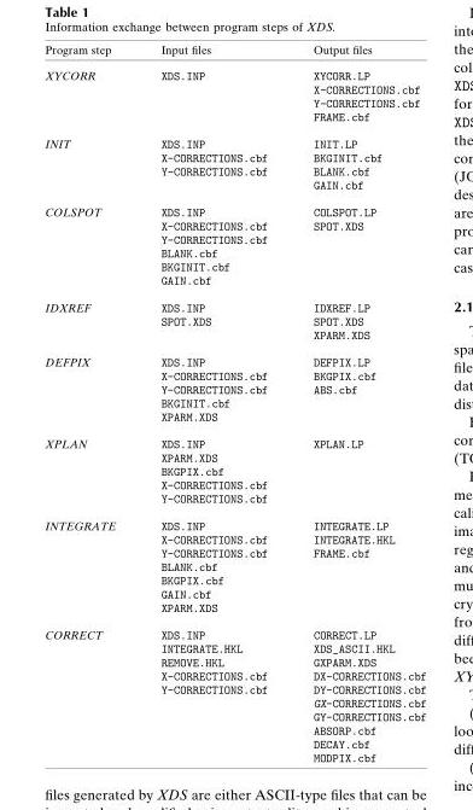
<table><thead><tr><td>Program step</td><td>Input files</td><td>Output files</td></tr></thead><tbody><tr><td rowspan="4">XYCORR</td><td>XDS.INP</td><td>XYCORR.LP</td></tr><tr><td></td><td>X-CORRECTIONS.cbf</td></tr><tr><td></td><td>Y-CORRECTIONS.cbf</td></tr><tr><td></td><td>FRAME.cbf</td></tr><tr><td rowspan="4">INIT</td><td>XDS.INP</td><td>INIT.LP</td></tr><tr><td>X-CORRECTIONS.cbf</td><td>BKGINIT.cbf</td></tr><tr><td>Y-CORRECTIONS.cbf</td><td>BLANK.cbf</td></tr><tr><td></td><td>GAIN.cbf</td></tr><tr><td rowspan="6">COLSPOT</td><td>XDS.INP</td><td>COLSPOT.LP</td></tr><tr><td>X-CORRECTIONS.cbf</td><td>SPOT.XDS</td></tr><tr><td>Y-CORRECTIONS.cbf</td><td></td></tr><tr><td>BLANK.cbf</td><td></td></tr><tr><td>BKGINIT.cbf</td><td></td></tr><tr><td>GAIN.cbf</td><td></td></tr><tr><td rowspan="3">IDXREF</td><td>XDS.INP</td><td>IDXREF.LP</td></tr><tr><td>SPOT.XDS</td><td>SPOT.XDS</td></tr><tr><td></td><td>XPARM.XDS</td></tr><tr><td rowspan="5">DEFPIX</td><td>XDS.INP</td><td>DEFPIX.LP</td></tr><tr><td>X-CORRECTIONS.cbf</td><td>BKGPIX.cbf</td></tr><tr><td>Y-CORRECTIONS.cbf</td><td>ABS.cbf</td></tr><tr><td>BKGINIT.cbf</td><td></td></tr><tr><td>XPARM.XDS</td><td></td></tr><tr><td rowspan="5">XPLAN</td><td>XDS.INP</td><td>XPLAN.LP</td></tr><tr><td>XPARM.XDS</td><td></td></tr><tr><td>BKGPIX.cbf</td><td></td></tr><tr><td>X-CORRECTIONS.cbf</td><td></td></tr><tr><td>Y-CORRECTIONS.cbf</td><td></td></tr><tr><td rowspan="7">INTEGRATE</td><td>XDS.INP</td><td>INTEGRATE.LP</td></tr><tr><td>X-CORRECTIONS.cbf</td><td>INTEGRATE.HKL</td></tr><tr><td>Y-CORRECTIONS.cbf</td><td>FRAME.cbf</td></tr><tr><td>BLANK.cbf</td><td></td></tr><tr><td>BKGPIX.cbf</td><td></td></tr><tr><td>GAIN.cbf</td><td></td></tr><tr><td>XPARM.XDS</td><td></td></tr><tr><td rowspan="10">CORRECT</td><td>XDS.INP</td><td>CORRECT.LP</td></tr><tr><td>INTEGRATE.HKL</td><td>XDS_ASCII.HKL</td></tr><tr><td>REMOVE.HKL</td><td>GXPARM.XDS</td></tr><tr><td>X-CORRECTIONS.cbf</td><td>DX-CORRECTIONS.cbf</td></tr><tr><td>Y-CORRECTIONS.cbf</td><td>DY-CORRECTIONS.cbf</td></tr><tr><td></td><td>GX-CORRECTIONS.cbf</td></tr><tr><td></td><td>GY-CORRECTIONS.cbf</td></tr><tr><td></td><td>ABSORP.cbf</td></tr><tr><td></td><td>DECAY.cbf</td></tr><tr><td></td><td>MODPIX.cbf</td></tr></tbody></table>